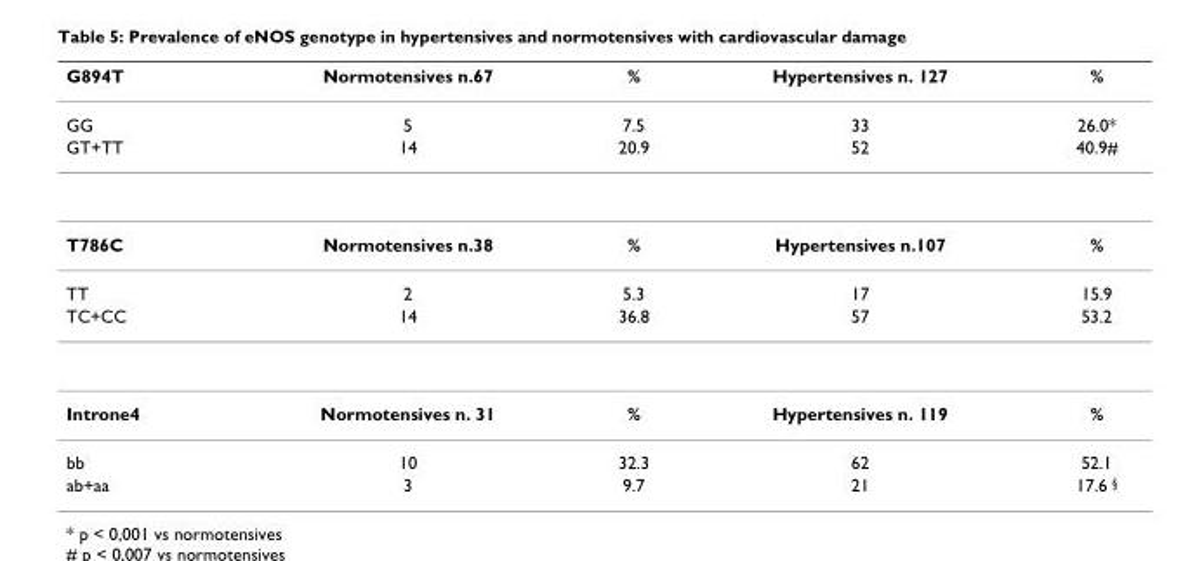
<table><thead><tr><td>G894T</td><td>Normotensives n.67</td><td>%</td><td>Hypertensives n. 127</td><td>%</td></tr></thead><tbody><tr><td>GG</td><td>5</td><td>7.5</td><td>33</td><td>26.0*</td></tr><tr><td>GT+TT</td><td>14</td><td>20.9</td><td>52</td><td>40.9#</td></tr><tr><td>T786C</td><td>Normotensives n.38</td><td>%</td><td>Hypertensives n.107</td><td>%</td></tr><tr><td>TT</td><td>2</td><td>5.3</td><td>17</td><td>15.9</td></tr><tr><td>TC+CC</td><td>14</td><td>36.8</td><td>57</td><td>53.2</td></tr><tr><td>Introne4</td><td>Normotensives n. 31</td><td>%</td><td>Hypertensives n. 119</td><td>%</td></tr><tr><td>bb</td><td>10</td><td>32.3</td><td>62</td><td>52.1</td></tr><tr><td>ab+aa</td><td>3</td><td>9.7</td><td>21</td><td>17.6 §</td></tr></tbody></table>